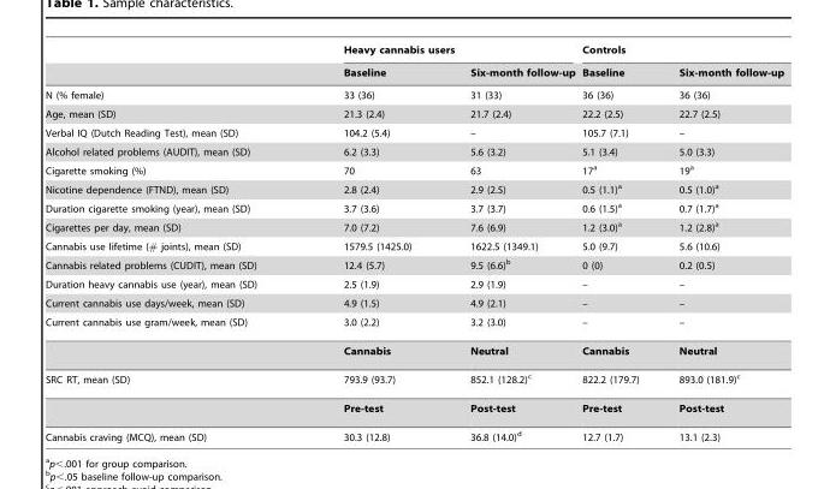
<table><thead><tr><td rowspan="2"></td><td colspan="2">Heavy cannabis users</td><td colspan="2">Controls</td></tr><tr><td>Baseline</td><td>Six-month follow-up</td><td>Baseline</td><td>Six-month follow-up</td></tr></thead><tbody><tr><td>N (% female)</td><td>33 (36)</td><td>31 (33)</td><td>36 (36)</td><td>36 (36)</td></tr><tr><td>Age, mean (SD)</td><td>21.3 (2.4)</td><td>21.7 (2.4)</td><td>22.2 (2.5)</td><td>22.7 (2.5)</td></tr><tr><td>Verbal IQ (Dutch Reading Test), mean (SD)</td><td>104.2 (5.4)</td><td>–</td><td>105.7 (7.1)</td><td>–</td></tr><tr><td>Alcohol related problems (AUDIT), mean (SD)</td><td>6.2 (3.3)</td><td>5.6 (3.2)</td><td>5.1 (3.4)</td><td>5.0 (3.3)</td></tr><tr><td>Cigarette smoking (%)</td><td>70</td><td>63</td><td>17<sup>a</sup></td><td>19<sup>a</sup></td></tr><tr><td>Nicotine dependence (FTND), mean (SD)</td><td>2.8 (2.4)</td><td>2.9 (2.5)</td><td>0.5 (1.1)<sup>a</sup></td><td>0.5 (1.0)<sup>a</sup></td></tr><tr><td>Duration cigarette smoking (year), mean (SD)</td><td>3.7 (3.6)</td><td>3.7 (3.7)</td><td>0.6 (1.5)<sup>a</sup></td><td>0.7 (1.7)<sup>a</sup></td></tr><tr><td>Cigarettes per day, mean (SD)</td><td>7.0 (7.2)</td><td>7.6 (6.9)</td><td>1.2 (3.0)<sup>a</sup></td><td>1.2 (2.8)<sup>a</sup></td></tr><tr><td>Cannabis use lifetime (# joints), mean (SD)</td><td>1579.5 (1425.0)</td><td>1622.5 (1349.1)</td><td>5.0 (9.7)</td><td>5.6 (10.6)</td></tr><tr><td>Cannabis related problems (CUDIT), mean (SD)</td><td>12.4 (5.7)</td><td>9.5 (6.6)<sup>b</sup></td><td>0 (0)</td><td>0.2 (0.5)</td></tr><tr><td>Duration heavy cannabis use (year), mean (SD)</td><td>2.5 (1.9)</td><td>2.9 (1.9)</td><td>–</td><td>–</td></tr><tr><td>Current cannabis use days/week, mean (SD)</td><td>4.9 (1.5)</td><td>4.9 (2.1)</td><td>–</td><td>–</td></tr><tr><td rowspan="2">Current cannabis use gram/week, mean (SD)</td><td>3.0 (2.2)</td><td>3.2 (3.0)</td><td>–</td><td>–</td></tr><tr><td>Cannabis</td><td>Neutral</td><td>Cannabis</td><td>Neutral</td></tr><tr><td rowspan="2">SRC RT, mean (SD)</td><td>793.9 (93.7)</td><td>852.1 (128.2)<sup>c</sup></td><td>822.2 (179.7)</td><td>893.0 (181.9)<sup>c</sup></td></tr><tr><td>Pre-test</td><td>Post-test</td><td>Pre-test</td><td>Post-test</td></tr><tr><td>Cannabis craving (MCQ), mean (SD)</td><td>30.3 (12.8)</td><td>36.8 (14.0)<sup>d</sup></td><td>12.7 (1.7)</td><td>13.1 (2.3)</td></tr></tbody></table>